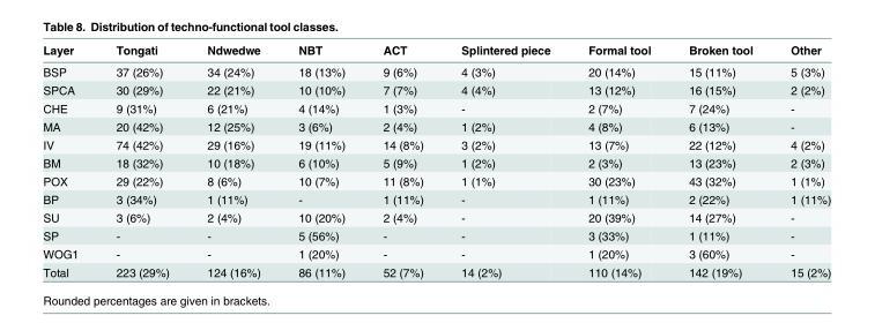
<table><thead><tr><td>Layer</td><td>Tongati</td><td>Ndwedwe</td><td>NBT</td><td>ACT</td><td>Splintered piece</td><td>Formal tool</td><td>Broken tool</td><td>Other</td></tr></thead><tbody><tr><td>BSP</td><td>37 (26%)</td><td>34 (24%)</td><td>18 (13%)</td><td>9 (6%)</td><td>4 (3%)</td><td>20 (14%)</td><td>15 (11%)</td><td>5 (3%)</td></tr><tr><td>SPCA</td><td>30 (29%)</td><td>22 (21%)</td><td>10 (10%)</td><td>7 (7%)</td><td>4 (4%)</td><td>13 (12%)</td><td>16 (15%)</td><td>2 (2%)</td></tr><tr><td>CHE</td><td>9 (31%)</td><td>6 (21%)</td><td>4 (14%)</td><td>1 (3%)</td><td>-</td><td>2 (7%)</td><td>7 (24%)</td><td>-</td></tr><tr><td>MA</td><td>20 (42%)</td><td>12 (25%)</td><td>3 (6%)</td><td>2 (4%)</td><td>1 (2%)</td><td>4 (8%)</td><td>6 (13%)</td><td>-</td></tr><tr><td>IV</td><td>74 (42%)</td><td>29 (16%)</td><td>19 (11%)</td><td>14 (8%)</td><td>3 (2%)</td><td>13 (7%)</td><td>22 (12%)</td><td>4 (2%)</td></tr><tr><td>BM</td><td>18 (32%)</td><td>10 (18%)</td><td>6 (10%)</td><td>5 (9%)</td><td>1 (2%)</td><td>2 (3%)</td><td>13 (23%)</td><td>2 (3%)</td></tr><tr><td>POX</td><td>29 (22%)</td><td>8 (6%)</td><td>10 (7%)</td><td>11 (8%)</td><td>1 (1%)</td><td>30 (23%)</td><td>43 (32%)</td><td>1 (1%)</td></tr><tr><td>BP</td><td>3 (34%)</td><td>1 (11%)</td><td>-</td><td>1 (11%)</td><td>-</td><td>1 (11%)</td><td>2 (22%)</td><td>1 (11%)</td></tr><tr><td>SU</td><td>3 (6%)</td><td>2 (4%)</td><td>10 (20%)</td><td>2 (4%)</td><td>-</td><td>20 (39%)</td><td>14 (27%)</td><td>-</td></tr><tr><td>SP</td><td>-</td><td>-</td><td>5 (56%)</td><td>-</td><td>-</td><td>3 (33%)</td><td>1 (11%)</td><td>-</td></tr><tr><td>WOG1</td><td>-</td><td>-</td><td>1 (20%)</td><td>-</td><td>-</td><td>1 (20%)</td><td>3 (60%)</td><td>-</td></tr><tr><td>Total</td><td>223 (29%)</td><td>124 (16%)</td><td>86 (11%)</td><td>52 (7%)</td><td>14 (2%)</td><td>110 (14%)</td><td>142 (19%)</td><td>15 (2%)</td></tr></tbody></table>